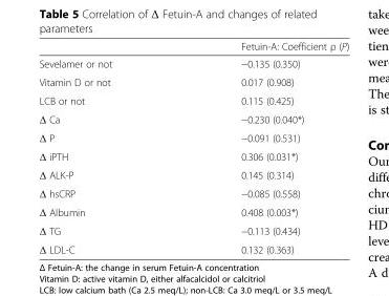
<table><thead><tr><td></td><td>Fetuin-A: Coefficient ρ (P)</td></tr></thead><tbody><tr><td>Sevelamer or not</td><td>−0.135 (0.350)</td></tr><tr><td>Vitamin D or not</td><td>0.017 (0.908)</td></tr><tr><td>LCB or not</td><td>0.115 (0.425)</td></tr><tr><td>Δ Ca</td><td>−0.230 (0.040*)</td></tr><tr><td>Δ P</td><td>−0.091 (0.531)</td></tr><tr><td>Δ iPTH</td><td>0.306 (0.031*)</td></tr><tr><td>Δ ALK-P</td><td>0.145 (0.314)</td></tr><tr><td>Δ hsCRP</td><td>−0.085 (0.558)</td></tr><tr><td>Δ Albumin</td><td>0.408 (0.003*)</td></tr><tr><td>Δ TG</td><td>−0.113 (0.434)</td></tr><tr><td>Δ LDL-C</td><td>0.132 (0.363)</td></tr></tbody></table>